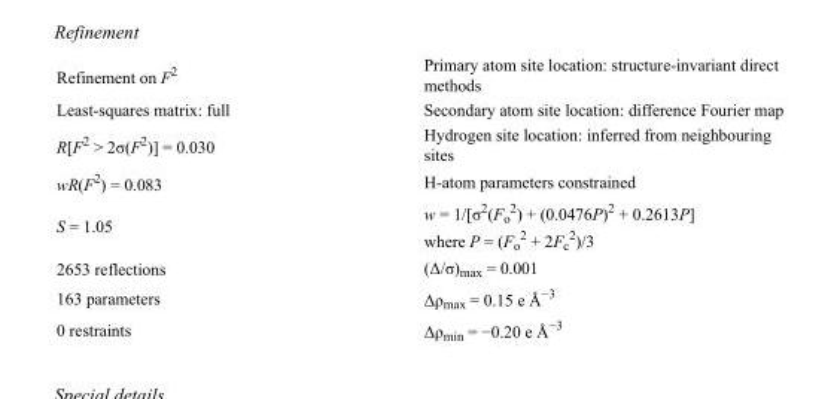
<table><tbody><tr><td>Refinement on F<sup>2</sup></td><td>Primary atom site location: structure-invariant direct methods</td></tr><tr><td>Least-squares matrix: full</td><td>Secondary atom site location: difference Fourier map</td></tr><tr><td>R[F<sup>2</sup> &gt; 2σ(F<sup>2</sup>)] = 0.030</td><td>Hydrogen site location: inferred from neighbouring sites</td></tr><tr><td>wR(F<sup>2</sup>) = 0.083</td><td>H-atom parameters constrained</td></tr><tr><td>S = 1.05</td><td>w = 1/[σ<sup>2</sup>(F<sub>o</sub> <sup>2</sup>) + (0.0476P)<sup>2</sup> + 0.2613P] where P = (F<sub>o</sub> <sup>2</sup> + 2F<sub>c</sub> <sup>2</sup>)/3</td></tr><tr><td>2653 reflections</td><td>(Δ/σ)<sub>max</sub> = 0.001</td></tr><tr><td>163 parameters</td><td>Δρ<sub>max</sub> = 0.15 e Å<sup>−3</sup></td></tr><tr><td>0 restraints</td><td>Δρ<sub>min</sub> = −0.20 e Å<sup>−3</sup></td></tr></tbody></table>